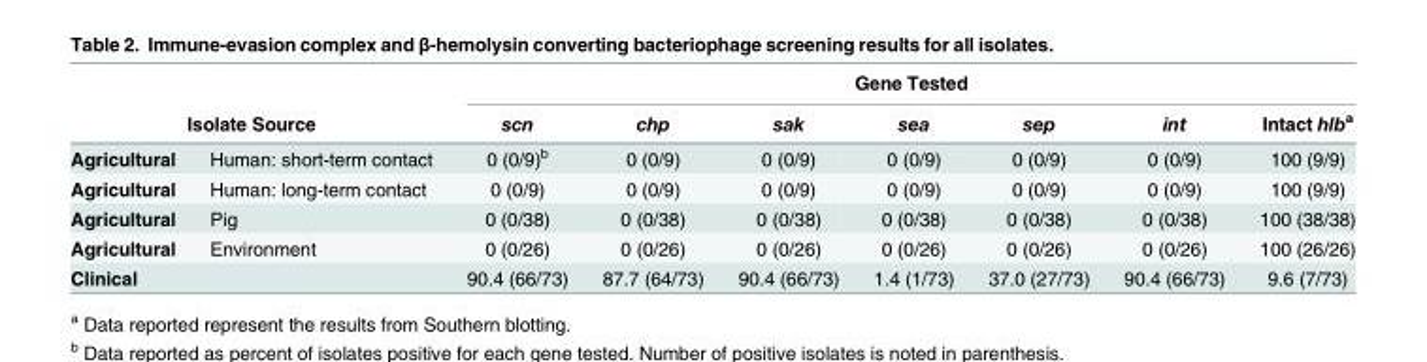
<table><thead><tr><td></td><td></td><td colspan="7">Gene Tested</td></tr><tr><td colspan="2">Isolate Source</td><td>scn</td><td>chp</td><td>sak</td><td>sea</td><td>sep</td><td>int</td><td>Intact hlb<sup>a</sup></td></tr></thead><tbody><tr><td>Agricultural</td><td>Human: short-term contact</td><td>0 (0/9)<sup>b</sup></td><td>0 (0/9)</td><td>0 (0/9)</td><td>0 (0/9)</td><td>0 (0/9)</td><td>0 (0/9)</td><td>100 (9/9)</td></tr><tr><td>Agricultural</td><td>Human: long-term contact</td><td>0 (0/9)</td><td>0 (0/9)</td><td>0 (0/9)</td><td>0 (0/9)</td><td>0 (0/9)</td><td>0 (0/9)</td><td>100 (9/9)</td></tr><tr><td>Agricultural</td><td>Pig</td><td>0 (0/38)</td><td>0 (0/38)</td><td>0 (0/38)</td><td>0 (0/38)</td><td>0 (0/38)</td><td>0 (0/38)</td><td>100 (38/38)</td></tr><tr><td>Agricultural</td><td>Environment</td><td>0 (0/26)</td><td>0 (0/26)</td><td>0 (0/26)</td><td>0 (0/26)</td><td>0 (0/26)</td><td>0 (0/26)</td><td>100 (26/26)</td></tr><tr><td colspan="2">Clinical</td><td>90.4 (66/73)</td><td>87.7 (64/73)</td><td>90.4 (66/73)</td><td>1.4 (1/73)</td><td>37.0 (27/73)</td><td>90.4 (66/73)</td><td>9.6 (7/73)</td></tr></tbody></table>